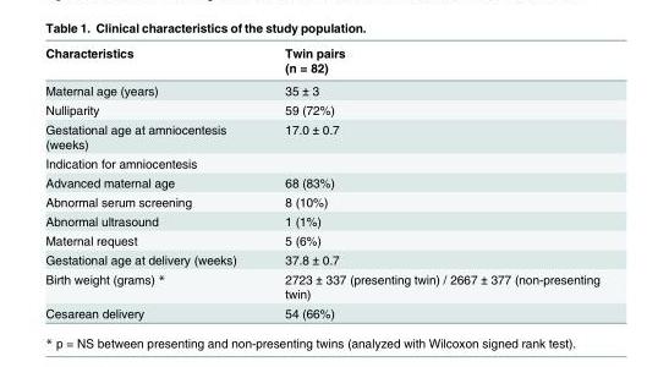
<table><thead><tr><td rowspan="2">Characteristics</td><td rowspan="2">Twin pairs (n = 82)</td></tr><tr></tr></thead><tbody><tr><td>Maternal age (years)</td><td>35 ± 3</td></tr><tr><td>Nulliparity</td><td>59 (72%)</td></tr><tr><td>Gestational age at amniocentesis (weeks)</td><td>17.0 ± 0.7</td></tr><tr><td colspan="2">Indication for amniocentesis</td></tr><tr><td>Advanced maternal age</td><td>68 (83%)</td></tr><tr><td>Abnormal serum screening</td><td>8 (10%)</td></tr><tr><td>Abnormal ultrasound</td><td>1 (1%)</td></tr><tr><td>Maternal request</td><td>5 (6%)</td></tr><tr><td>Gestational age at delivery (weeks)</td><td>37.8 ± 0.7</td></tr><tr><td>Birth weight (grams) *</td><td>2723 ± 337 (presenting twin) / 2667 ± 377 (non-presenting twin)</td></tr><tr><td>Cesarean delivery</td><td>54 (66%)</td></tr></tbody></table>